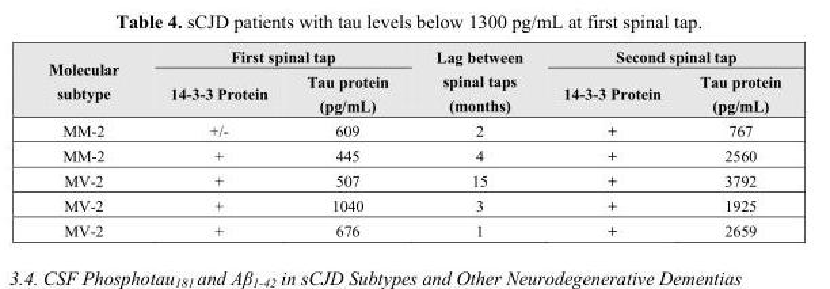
<table><thead><tr><td rowspan="2">Molecular subtype</td><td colspan="2">First spinal tap</td><td rowspan="2">Lag between spinal taps (months)</td><td colspan="2">Second spinal tap</td></tr><tr><td>14-3-3 Protein</td><td>Tau protein (pg/mL)</td><td>14-3-3 Protein</td><td>Tau protein (pg/mL)</td></tr></thead><tbody><tr><td>MM-2</td><td>+/-</td><td>609</td><td>2</td><td>+</td><td>767</td></tr><tr><td>MM-2</td><td>+</td><td>445</td><td>4</td><td>+</td><td>2560</td></tr><tr><td>MV-2</td><td>+</td><td>507</td><td>15</td><td>+</td><td>3792</td></tr><tr><td>MV-2</td><td>+</td><td>1040</td><td>3</td><td>+</td><td>1925</td></tr><tr><td>MV-2</td><td>+</td><td>676</td><td>1</td><td>+</td><td>2659</td></tr></tbody></table>